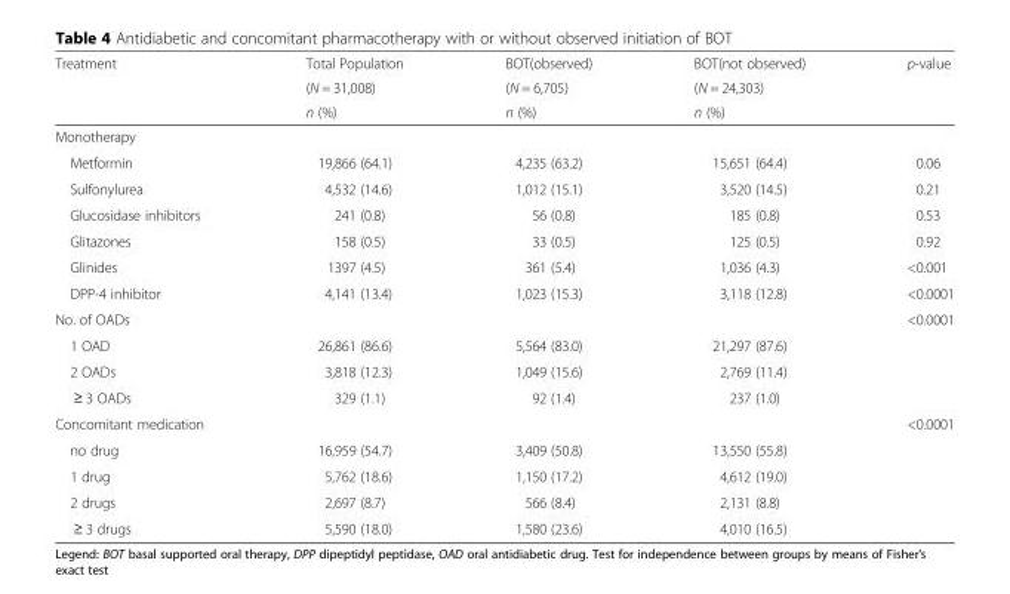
<table><thead><tr><td rowspan="3">Treatment</td><td rowspan="3">Total Population (N = 31,008) n (%)</td><td rowspan="3">BOT(observed) (N = 6,705) n (%)</td><td rowspan="3">BOT(not observed) (N = 24,303) n (%)</td><td rowspan="3">p-value</td></tr><tr></tr><tr></tr></thead><tbody><tr><td colspan="5">Monotherapy</td></tr><tr><td>Metformin</td><td>19,866 (64.1)</td><td>4,235 (63.2)</td><td>15,651 (64.4)</td><td>0.06</td></tr><tr><td>Sulfonylurea</td><td>4,532 (14.6)</td><td>1,012 (15.1)</td><td>3,520 (14.5)</td><td>0.21</td></tr><tr><td>Glucosidase inhibitors</td><td>241 (0.8)</td><td>56 (0.8)</td><td>185 (0.8)</td><td>0.53</td></tr><tr><td>Glitazones</td><td>158 (0.5)</td><td>33 (0.5)</td><td>125 (0.5)</td><td>0.92</td></tr><tr><td>Glinides</td><td>1397 (4.5)</td><td>361 (5.4)</td><td>1,036 (4.3)</td><td>&lt;0.001</td></tr><tr><td>DPP-4 inhibitor</td><td>4,141 (13.4)</td><td>1,023 (15.3)</td><td>3,118 (12.8)</td><td>&lt;0.0001</td></tr><tr><td>No. of OADs</td><td></td><td></td><td></td><td>&lt;0.0001</td></tr><tr><td>1 OAD</td><td>26,861 (86.6)</td><td>5,564 (83.0)</td><td>21,297 (87.6)</td><td></td></tr><tr><td>2 OADs</td><td>3,818 (12.3)</td><td>1,049 (15.6)</td><td>2,769 (11.4)</td><td></td></tr><tr><td>≥ 3 OADs</td><td>329 (1.1)</td><td>92 (1.4)</td><td>237 (1.0)</td><td></td></tr><tr><td>Concomitant medication</td><td></td><td></td><td></td><td>&lt;0.0001</td></tr><tr><td>no drug</td><td>16,959 (54.7)</td><td>3,409 (50.8)</td><td>13,550 (55.8)</td><td></td></tr><tr><td>1 drug</td><td>5,762 (18.6)</td><td>1,150 (17.2)</td><td>4,612 (19.0)</td><td></td></tr><tr><td>2 drugs</td><td>2,697 (8.7)</td><td>566 (8.4)</td><td>2,131 (8.8)</td><td></td></tr><tr><td>≥ 3 drugs</td><td>5,590 (18.0)</td><td>1,580 (23.6)</td><td>4,010 (16.5)</td><td></td></tr></tbody></table>